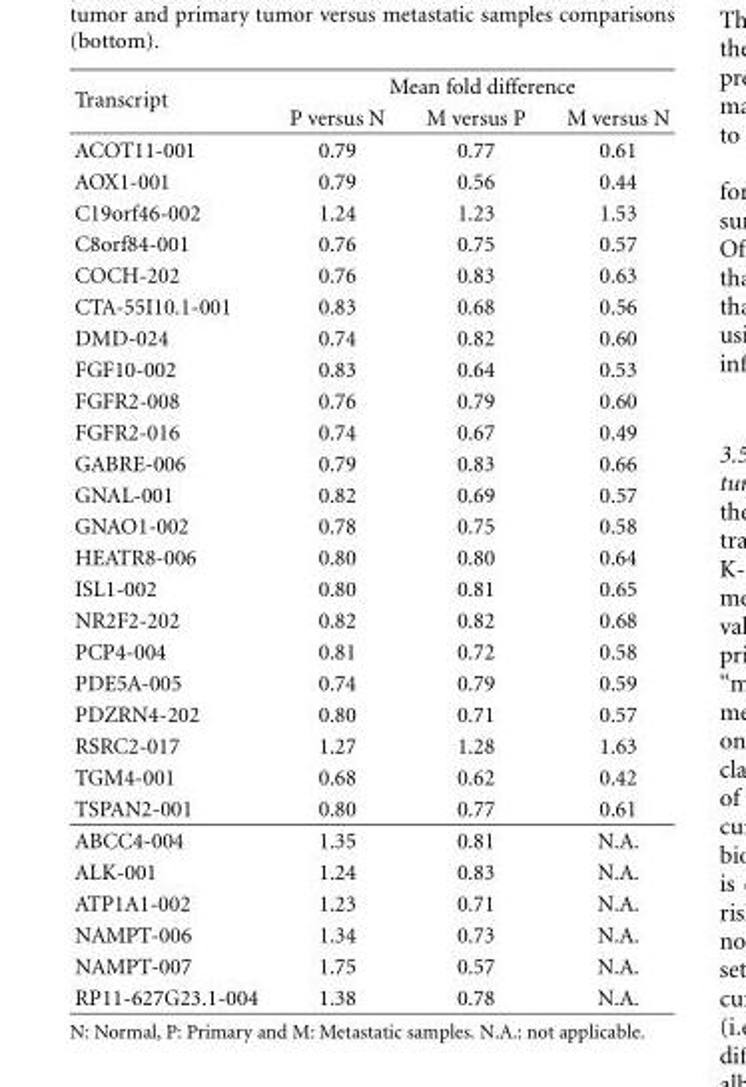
<table><thead><tr><td rowspan="2">Transcript</td><td colspan="3">Mean fold difference</td></tr><tr><td>P versus N</td><td>M versus P</td><td>M versus N</td></tr></thead><tbody><tr><td>ACOT11-001</td><td>0.79</td><td>0.77</td><td>0.61</td></tr><tr><td>AOX1-001</td><td>0.79</td><td>0.56</td><td>0.44</td></tr><tr><td>C19orf46-002</td><td>1.24</td><td>1.23</td><td>1.53</td></tr><tr><td>C8orf84-001</td><td>0.76</td><td>0.75</td><td>0.57</td></tr><tr><td>COCH-202</td><td>0.76</td><td>0.83</td><td>0.63</td></tr><tr><td>CTA-55I10.1-001</td><td>0.83</td><td>0.68</td><td>0.56</td></tr><tr><td>DMD-024</td><td>0.74</td><td>0.82</td><td>0.60</td></tr><tr><td>FGF10-002</td><td>0.83</td><td>0.64</td><td>0.53</td></tr><tr><td>FGFR2-008</td><td>0.76</td><td>0.79</td><td>0.60</td></tr><tr><td>FGFR2-016</td><td>0.74</td><td>0.67</td><td>0.49</td></tr><tr><td>GABRE-006</td><td>0.79</td><td>0.83</td><td>0.66</td></tr><tr><td>GNAL-001</td><td>0.82</td><td>0.69</td><td>0.57</td></tr><tr><td>GNAO1-002</td><td>0.78</td><td>0.75</td><td>0.58</td></tr><tr><td>HEATR8-006</td><td>0.80</td><td>0.80</td><td>0.64</td></tr><tr><td>ISL1-002</td><td>0.80</td><td>0.81</td><td>0.65</td></tr><tr><td>NR2F2-202</td><td>0.82</td><td>0.82</td><td>0.68</td></tr><tr><td>PCP4-004</td><td>0.81</td><td>0.72</td><td>0.58</td></tr><tr><td>PDE5A-005</td><td>0.74</td><td>0.79</td><td>0.59</td></tr><tr><td>PDZRN4-202</td><td>0.80</td><td>0.71</td><td>0.57</td></tr><tr><td>RSRC2-017</td><td>1.27</td><td>1.28</td><td>1.63</td></tr><tr><td>TGM4-001</td><td>0.68</td><td>0.62</td><td>0.42</td></tr><tr><td>TSPAN2-001</td><td>0.80</td><td>0.77</td><td>0.61</td></tr><tr><td>ABCC4-004</td><td>1.35</td><td>0.81</td><td>N.A.</td></tr><tr><td>ALK-001</td><td>1.24</td><td>0.83</td><td>N.A.</td></tr><tr><td>ATP1A1-002</td><td>1.23</td><td>0.71</td><td>N.A.</td></tr><tr><td>NAMPT-006</td><td>1.34</td><td>0.73</td><td>N.A.</td></tr><tr><td>NAMPT-007</td><td>1.75</td><td>0.57</td><td>N.A.</td></tr><tr><td>RP11-627G23.1-004</td><td>1.38</td><td>0.78</td><td>N.A.</td></tr></tbody></table>